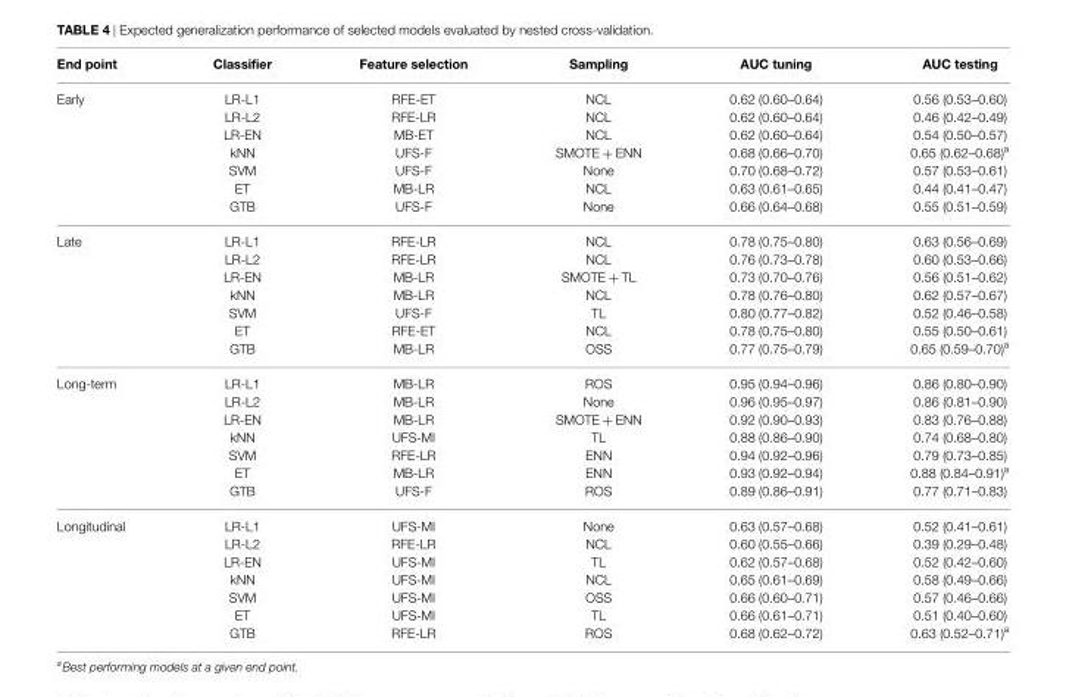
<table><thead><tr><td>End point</td><td>Classifier</td><td>Feature selection</td><td>Sampling</td><td>AUC tuning</td><td>AUC testing</td></tr></thead><tbody><tr><td rowspan="7">Early</td><td>LR-L1</td><td>RFE-ET</td><td>NCL</td><td>0.62 (0.60–0.64)</td><td>0.56 (0.53–0.60)</td></tr><tr><td>LR-L2</td><td>RFE-LR</td><td>NCL</td><td>0.62 (0.60–0.64)</td><td>0.46 (0.42–0.49)</td></tr><tr><td>LR-EN</td><td>MB-ET</td><td>NCL</td><td>0.62 (0.60–0.64)</td><td>0.54 (0.50–0.57)</td></tr><tr><td>kNN</td><td>UFS-F</td><td>SMOTE + ENN</td><td>0.68 (0.66–0.70)</td><td>0.65 (0.62–0.68)<sup>a</sup></td></tr><tr><td>SVM</td><td>UFS-F</td><td>None</td><td>0.70 (0.68–0.72)</td><td>0.57 (0.53–0.61)</td></tr><tr><td>ET</td><td>MB-LR</td><td>NCL</td><td>0.63 (0.61–0.65)</td><td>0.44 (0.41–0.47)</td></tr><tr><td>GTB</td><td>UFS-F</td><td>None</td><td>0.66 (0.64–0.68)</td><td>0.55 (0.51–0.59)</td></tr><tr><td rowspan="7">Late</td><td>LR-L1</td><td>RFE-LR</td><td>NCL</td><td>0.78 (0.75–0.80)</td><td>0.63 (0.56–0.69)</td></tr><tr><td>LR-L2</td><td>RFE-LR</td><td>NCL</td><td>0.76 (0.73–0.78)</td><td>0.60 (0.53–0.66)</td></tr><tr><td>LR-EN</td><td>MB-LR</td><td>SMOTE + TL</td><td>0.73 (0.70–0.76)</td><td>0.56 (0.51–0.62)</td></tr><tr><td>kNN</td><td>MB-LR</td><td>NCL</td><td>0.78 (0.76–0.80)</td><td>0.62 (0.57–0.67)</td></tr><tr><td>SVM</td><td>UFS-F</td><td>TL</td><td>0.80 (0.77–0.82)</td><td>0.52 (0.46–0.58)</td></tr><tr><td>ET</td><td>RFE-ET</td><td>NCL</td><td>0.78 (0.75–0.80)</td><td>0.55 (0.50–0.61)</td></tr><tr><td>GTB</td><td>MB-LR</td><td>OSS</td><td>0.77 (0.75–0.79)</td><td>0.65 (0.59–0.70)<sup>a</sup></td></tr><tr><td rowspan="7">Long-term</td><td>LR-L1</td><td>MB-LR</td><td>ROS</td><td>0.95 (0.94–0.96)</td><td>0.86 (0.80–0.90)</td></tr><tr><td>LR-L2</td><td>MB-LR</td><td>None</td><td>0.96 (0.95–0.97)</td><td>0.86 (0.81–0.90)</td></tr><tr><td>LR-EN</td><td>MB-LR</td><td>SMOTE + ENN</td><td>0.92 (0.90–0.93)</td><td>0.83 (0.76–0.88)</td></tr><tr><td>kNN</td><td>UFS-MI</td><td>TL</td><td>0.88 (0.86–0.90)</td><td>0.74 (0.68–0.80)</td></tr><tr><td>SVM</td><td>RFE-LR</td><td>ENN</td><td>0.94 (0.92–0.96)</td><td>0.79 (0.73–0.85)</td></tr><tr><td>ET</td><td>MB-LR</td><td>ENN</td><td>0.93 (0.92–0.94)</td><td>0.88 (0.84–0.91)<sup>a</sup></td></tr><tr><td>GTB</td><td>UFS-F</td><td>ROS</td><td>0.89 (0.86–0.91)</td><td>0.77 (0.71–0.83)</td></tr><tr><td rowspan="7">Longitudinal</td><td>LR-L1</td><td>UFS-MI</td><td>None</td><td>0.63 (0.57–0.68)</td><td>0.52 (0.41–0.61)</td></tr><tr><td>LR-L2</td><td>RFE-LR</td><td>NCL</td><td>0.60 (0.55–0.66)</td><td>0.39 (0.29–0.48)</td></tr><tr><td>LR-EN</td><td>UFS-MI</td><td>TL</td><td>0.62 (0.57–0.68)</td><td>0.52 (0.42–0.60)</td></tr><tr><td>kNN</td><td>UFS-MI</td><td>NCL</td><td>0.65 (0.61–0.69)</td><td>0.58 (0.49–0.66)</td></tr><tr><td>SVM</td><td>UFS-MI</td><td>OSS</td><td>0.66 (0.60–0.71)</td><td>0.57 (0.46–0.66)</td></tr><tr><td>ET</td><td>UFS-MI</td><td>TL</td><td>0.66 (0.61–0.71)</td><td>0.51 (0.40–0.60)</td></tr><tr><td>GTB</td><td>RFE-LR</td><td>ROS</td><td>0.68 (0.62–0.72)</td><td>0.63 (0.52–0.71)<sup>a</sup></td></tr></tbody></table>